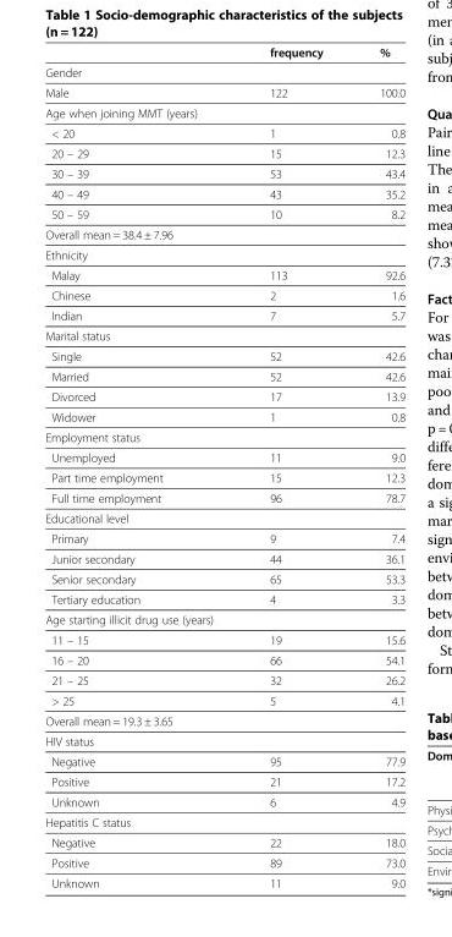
<table><thead><tr><td></td><td>frequency</td><td>%</td></tr></thead><tbody><tr><td colspan="3">Gender</td></tr><tr><td>Male</td><td>122</td><td>100.0</td></tr><tr><td colspan="3">Age when joining MMT (years)</td></tr><tr><td>&lt; 20</td><td>1</td><td>0.8</td></tr><tr><td>20 – 29</td><td>15</td><td>12.3</td></tr><tr><td>30 – 39</td><td>53</td><td>43.4</td></tr><tr><td>40 – 49</td><td>43</td><td>35.2</td></tr><tr><td>50 – 59</td><td>10</td><td>8.2</td></tr><tr><td colspan="3">Overall mean = 38.4 ± 7.96</td></tr><tr><td colspan="3">Ethnicity</td></tr><tr><td>Malay</td><td>113</td><td>92.6</td></tr><tr><td>Chinese</td><td>2</td><td>1.6</td></tr><tr><td>Indian</td><td>7</td><td>5.7</td></tr><tr><td colspan="3">Marital status</td></tr><tr><td>Single</td><td>52</td><td>42.6</td></tr><tr><td>Married</td><td>52</td><td>42.6</td></tr><tr><td>Divorced</td><td>17</td><td>13.9</td></tr><tr><td>Widower</td><td>1</td><td>0.8</td></tr><tr><td colspan="3">Employment status</td></tr><tr><td>Unemployed</td><td>11</td><td>9.0</td></tr><tr><td>Part time employment</td><td>15</td><td>12.3</td></tr><tr><td>Full time employment</td><td>96</td><td>78.7</td></tr><tr><td colspan="3">Educational level</td></tr><tr><td>Primary</td><td>9</td><td>7.4</td></tr><tr><td>Junior secondary</td><td>44</td><td>36.1</td></tr><tr><td>Senior secondary</td><td>65</td><td>53.3</td></tr><tr><td>Tertiary education</td><td>4</td><td>3.3</td></tr><tr><td colspan="3">Age starting illicit drug use (years)</td></tr><tr><td>11 – 15</td><td>19</td><td>15.6</td></tr><tr><td>16 – 20</td><td>66</td><td>54.1</td></tr><tr><td>21 – 25</td><td>32</td><td>26.2</td></tr><tr><td>&gt; 25</td><td>5</td><td>4.1</td></tr><tr><td colspan="3">Overall mean = 19.3 ± 3.65</td></tr><tr><td colspan="3">HIV status</td></tr><tr><td>Negative</td><td>95</td><td>77.9</td></tr><tr><td>Positive</td><td>21</td><td>17.2</td></tr><tr><td>Unknown</td><td>6</td><td>4.9</td></tr><tr><td colspan="3">Hepatitis C status</td></tr><tr><td>Negative</td><td>22</td><td>18.0</td></tr><tr><td>Positive</td><td>89</td><td>73.0</td></tr><tr><td>Unknown</td><td>11</td><td>9.0</td></tr></tbody></table>